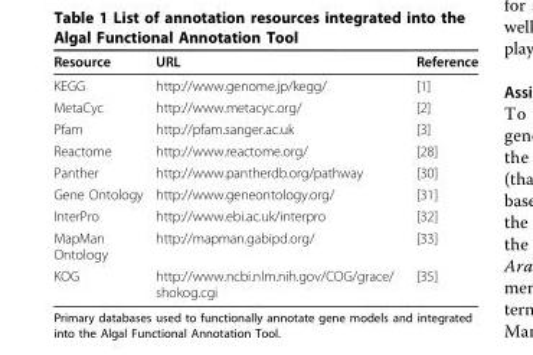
<table><thead><tr><td>Resource</td><td>URL</td><td>Reference</td></tr></thead><tbody><tr><td>KEGG</td><td>http://www.genome.jp/kegg/</td><td>[1]</td></tr><tr><td>MetaCyc</td><td>http://www.metacyc.org/</td><td>[2]</td></tr><tr><td>Pfam</td><td>http://pfam.sanger.ac.uk</td><td>[3]</td></tr><tr><td>Reactome</td><td>http://www.reactome.org/</td><td>[28]</td></tr><tr><td>Panther</td><td>http://www.pantherdb.org/pathway</td><td>[30]</td></tr><tr><td>Gene Ontology</td><td>http://www.geneontology.org/</td><td>[31]</td></tr><tr><td>InterPro</td><td>http://www.ebi.ac.uk/interpro</td><td>[32]</td></tr><tr><td>MapMan Ontology</td><td>http://mapman.gabipd.org/</td><td>[33]</td></tr><tr><td>KOG</td><td>http://www.ncbi.nlm.nih.gov/COG/grace/ shokog.cgi</td><td>[35]</td></tr></tbody></table>